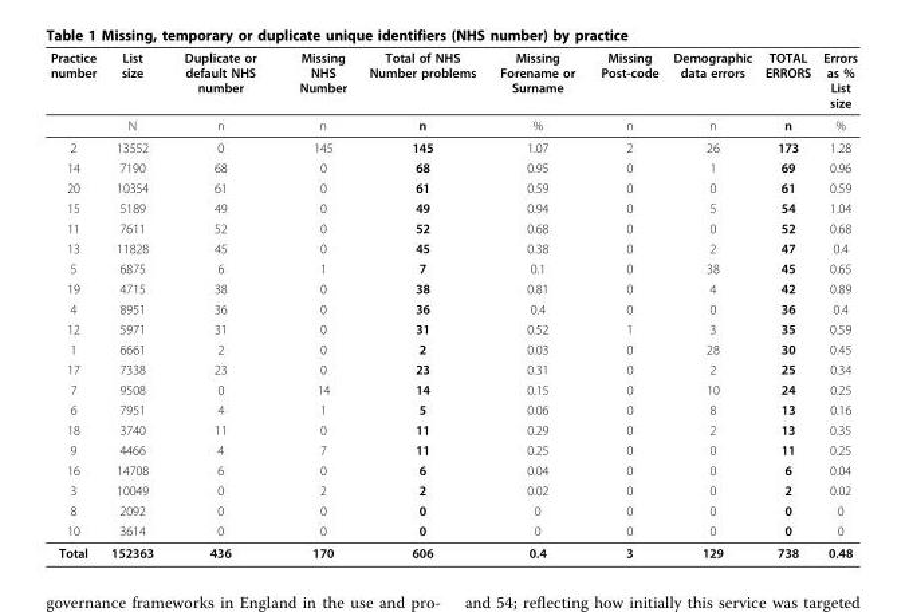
<table><thead><tr><td>Practice number</td><td>List size</td><td>Duplicate or default NHS number</td><td>Missing NHS Number</td><td>Total of NHS Number problems</td><td>Missing Forename or Surname</td><td>Missing Post-code</td><td>Demographic data errors</td><td>TOTAL ERRORS</td><td>Errors as % List size</td></tr></thead><tbody><tr><td></td><td>N</td><td>n</td><td>n</td><td>n</td><td>%</td><td>n</td><td>n</td><td>n</td><td>%</td></tr><tr><td>2</td><td>13552</td><td>0</td><td>145</td><td>145</td><td>1.07</td><td>2</td><td>26</td><td>173</td><td>1.28</td></tr><tr><td>14</td><td>7190</td><td>68</td><td>0</td><td>68</td><td>0.95</td><td>0</td><td>1</td><td>69</td><td>0.96</td></tr><tr><td>20</td><td>10354</td><td>61</td><td>0</td><td>61</td><td>0.59</td><td>0</td><td>0</td><td>61</td><td>0.59</td></tr><tr><td>15</td><td>5189</td><td>49</td><td>0</td><td>49</td><td>0.94</td><td>0</td><td>5</td><td>54</td><td>1.04</td></tr><tr><td>11</td><td>7611</td><td>52</td><td>0</td><td>52</td><td>0.68</td><td>0</td><td>0</td><td>52</td><td>0.68</td></tr><tr><td>13</td><td>11828</td><td>45</td><td>0</td><td>45</td><td>0.38</td><td>0</td><td>2</td><td>47</td><td>0.4</td></tr><tr><td>5</td><td>6875</td><td>6</td><td>1</td><td>7</td><td>0.1</td><td>0</td><td>38</td><td>45</td><td>0.65</td></tr><tr><td>19</td><td>4715</td><td>38</td><td>0</td><td>38</td><td>0.81</td><td>0</td><td>4</td><td>42</td><td>0.89</td></tr><tr><td>4</td><td>8951</td><td>36</td><td>0</td><td>36</td><td>0.4</td><td>0</td><td>0</td><td>36</td><td>0.4</td></tr><tr><td>12</td><td>5971</td><td>31</td><td>0</td><td>31</td><td>0.52</td><td>1</td><td>3</td><td>35</td><td>0.59</td></tr><tr><td>1</td><td>6661</td><td>2</td><td>0</td><td>2</td><td>0.03</td><td>0</td><td>28</td><td>30</td><td>0.45</td></tr><tr><td>17</td><td>7338</td><td>23</td><td>0</td><td>23</td><td>0.31</td><td>0</td><td>2</td><td>25</td><td>0.34</td></tr><tr><td>7</td><td>9508</td><td>0</td><td>14</td><td>14</td><td>0.15</td><td>0</td><td>10</td><td>24</td><td>0.25</td></tr><tr><td>6</td><td>7951</td><td>4</td><td>1</td><td>5</td><td>0.06</td><td>0</td><td>8</td><td>13</td><td>0.16</td></tr><tr><td>18</td><td>3740</td><td>11</td><td>0</td><td>11</td><td>0.29</td><td>0</td><td>2</td><td>13</td><td>0.35</td></tr><tr><td>9</td><td>4466</td><td>4</td><td>7</td><td>11</td><td>0.25</td><td>0</td><td>0</td><td>11</td><td>0.25</td></tr><tr><td>16</td><td>14708</td><td>6</td><td>0</td><td>6</td><td>0.04</td><td>0</td><td>0</td><td>6</td><td>0.04</td></tr><tr><td>3</td><td>10049</td><td>0</td><td>2</td><td>2</td><td>0.02</td><td>0</td><td>0</td><td>2</td><td>0.02</td></tr><tr><td>8</td><td>2092</td><td>0</td><td>0</td><td>0</td><td>0</td><td>0</td><td>0</td><td>0</td><td>0</td></tr><tr><td>10</td><td>3614</td><td>0</td><td>0</td><td>0</td><td>0</td><td>0</td><td>0</td><td>0</td><td>0</td></tr><tr><td>Total</td><td>152363</td><td>436</td><td>170</td><td>606</td><td>0.4</td><td>3</td><td>129</td><td>738</td><td>0.48</td></tr></tbody></table>